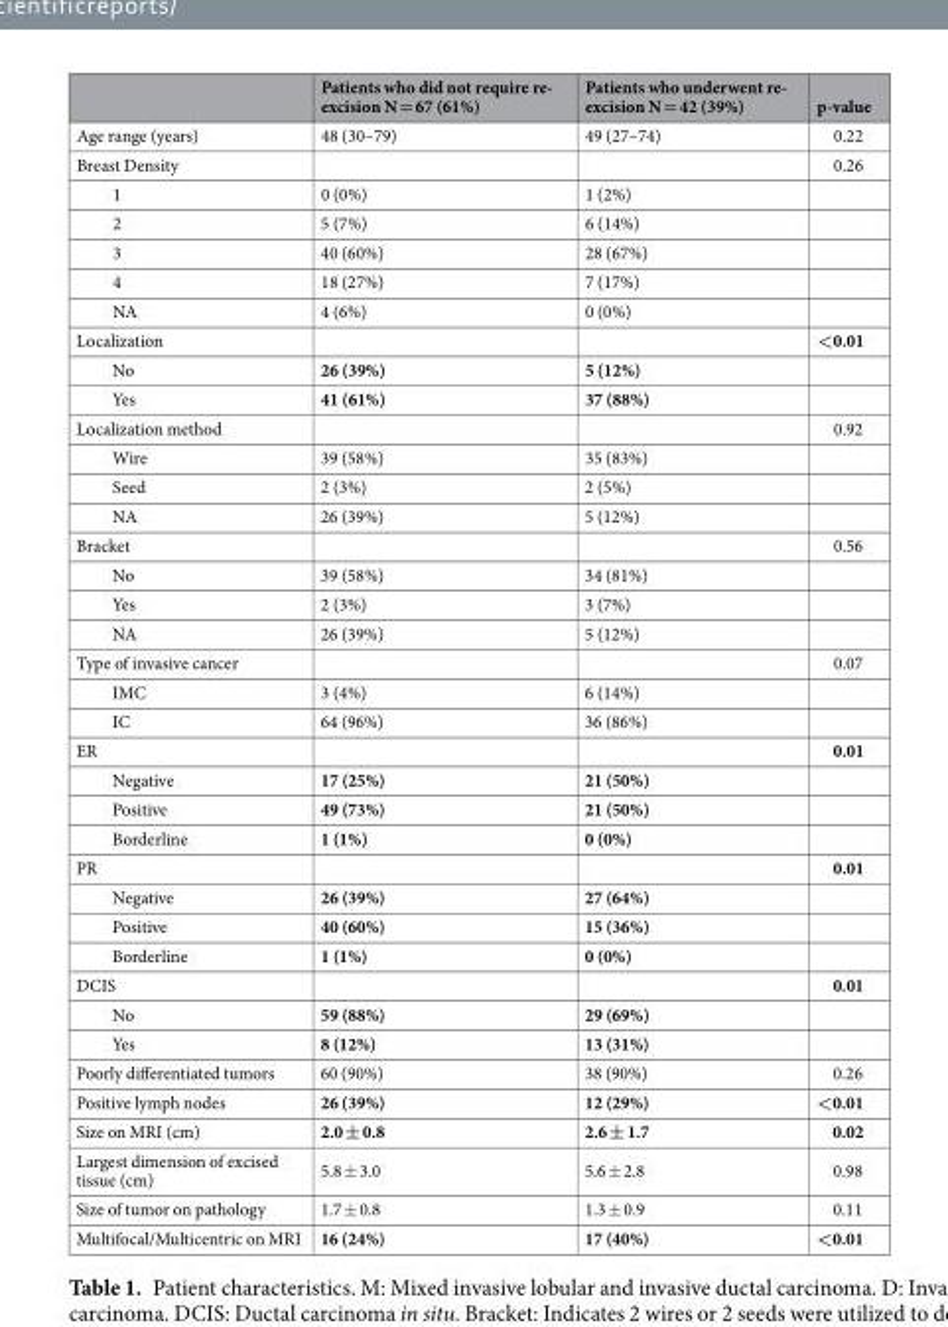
<table><thead><tr><td></td><td>Patients who did not require re- excision N = 67 (61%)</td><td>Patients who underwent re- excision N = 42 (39%)</td><td>p-value</td></tr></thead><tbody><tr><td>Age range (years)</td><td>48 (30–79)</td><td>49 (27–74)</td><td>0.22</td></tr><tr><td>Breast Density</td><td></td><td></td><td>0.26</td></tr><tr><td>1</td><td>0 (0%)</td><td>1 (2%)</td><td></td></tr><tr><td>2</td><td>5 (7%)</td><td>6 (14%)</td><td></td></tr><tr><td>3</td><td>40 (60%)</td><td>28 (67%)</td><td></td></tr><tr><td>4</td><td>18 (27%)</td><td>7 (17%)</td><td></td></tr><tr><td>NA</td><td>4 (6%)</td><td>0 (0%)</td><td></td></tr><tr><td>Localization</td><td></td><td></td><td>&lt;0.01</td></tr><tr><td>No</td><td>26 (39%)</td><td>5 (12%)</td><td></td></tr><tr><td>Yes</td><td>41 (61%)</td><td>37 (88%)</td><td></td></tr><tr><td>Localization method</td><td></td><td></td><td>0.92</td></tr><tr><td>Wire</td><td>39 (58%)</td><td>35 (83%)</td><td></td></tr><tr><td>Seed</td><td>2 (3%)</td><td>2 (5%)</td><td></td></tr><tr><td>NA</td><td>26 (39%)</td><td>5 (12%)</td><td></td></tr><tr><td>Bracket</td><td></td><td></td><td>0.56</td></tr><tr><td>No</td><td>39 (58%)</td><td>34 (81%)</td><td></td></tr><tr><td>Yes</td><td>2 (3%)</td><td>3 (7%)</td><td></td></tr><tr><td>NA</td><td>26 (39%)</td><td>5 (12%)</td><td></td></tr><tr><td>Type of invasive cancer</td><td></td><td></td><td>0.07</td></tr><tr><td>IMC</td><td>3 (4%)</td><td>6 (14%)</td><td></td></tr><tr><td>IC</td><td>64 (96%)</td><td>36 (86%)</td><td></td></tr><tr><td>ER</td><td></td><td></td><td>0.01</td></tr><tr><td>Negative</td><td>17 (25%)</td><td>21 (50%)</td><td></td></tr><tr><td>Positive</td><td>49 (73%)</td><td>21 (50%)</td><td></td></tr><tr><td>Borderline</td><td>1 (1%)</td><td>0 (0%)</td><td></td></tr><tr><td>PR</td><td></td><td></td><td>0.01</td></tr><tr><td>Negative</td><td>26 (39%)</td><td>27 (64%)</td><td></td></tr><tr><td>Positive</td><td>40 (60%)</td><td>15 (36%)</td><td></td></tr><tr><td>Borderline</td><td>1 (1%)</td><td>0 (0%)</td><td></td></tr><tr><td>DCIS</td><td></td><td></td><td>0.01</td></tr><tr><td>No</td><td>59 (88%)</td><td>29 (69%)</td><td></td></tr><tr><td>Yes</td><td>8 (12%)</td><td>13 (31%)</td><td></td></tr><tr><td>Poorly differentiated tumors</td><td>60 (90%)</td><td>38 (90%)</td><td>0.26</td></tr><tr><td>Positive lymph nodes</td><td>26 (39%)</td><td>12 (29%)</td><td>&lt;0.01</td></tr><tr><td>Size on MRI (cm)</td><td>2.0 ± 0.8</td><td>2.6 ± 1.7</td><td>0.02</td></tr><tr><td>Largest dimension of excised tissue (cm)</td><td>5.8 ± 3.0</td><td>5.6 ± 2.8</td><td>0.98</td></tr><tr><td>Size of tumor on pathology</td><td>1.7 ± 0.8</td><td>1.3 ± 0.9</td><td>0.11</td></tr><tr><td>Multifocal/Multicentric on MRI</td><td>16 (24%)</td><td>17 (40%)</td><td>&lt;0.01</td></tr></tbody></table>